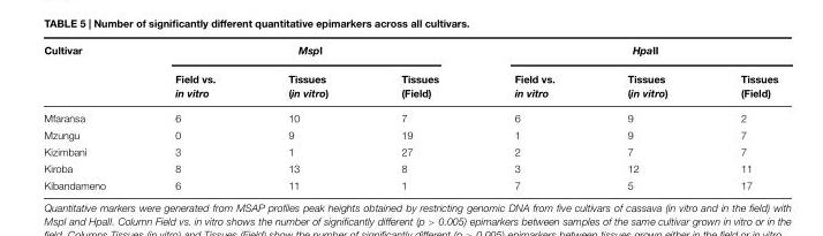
<table><thead><tr><td rowspan="2">Cultivar</td><td colspan="3">MspI</td><td colspan="3">HpaII</td></tr><tr><td>Field vs. in vitro</td><td>Tissues (in vitro)</td><td>Tissues (Field)</td><td>Field vs. in vitro</td><td>Tissues (in vitro)</td><td>Tissues (Field)</td></tr></thead><tbody><tr><td>Mfaransa</td><td>6</td><td>10</td><td>7</td><td>6</td><td>9</td><td>2</td></tr><tr><td>Mzungu</td><td>0</td><td>9</td><td>19</td><td>1</td><td>9</td><td>7</td></tr><tr><td>Kizimbani</td><td>3</td><td>1</td><td>27</td><td>2</td><td>7</td><td>7</td></tr><tr><td>Kiroba</td><td>8</td><td>13</td><td>8</td><td>3</td><td>12</td><td>11</td></tr><tr><td>Kibandameno</td><td>6</td><td>11</td><td>1</td><td>7</td><td>5</td><td>17</td></tr></tbody></table>